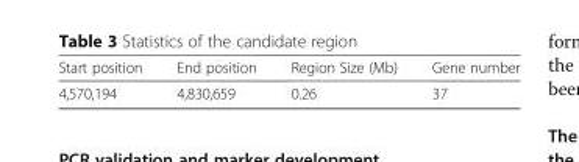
<table><thead><tr><td>Start position</td><td>End position</td><td>Region Size (Mb)</td><td>Gene number</td></tr></thead><tbody><tr><td>4,570,194</td><td>4,830,659</td><td>0.26</td><td>37</td></tr></tbody></table>